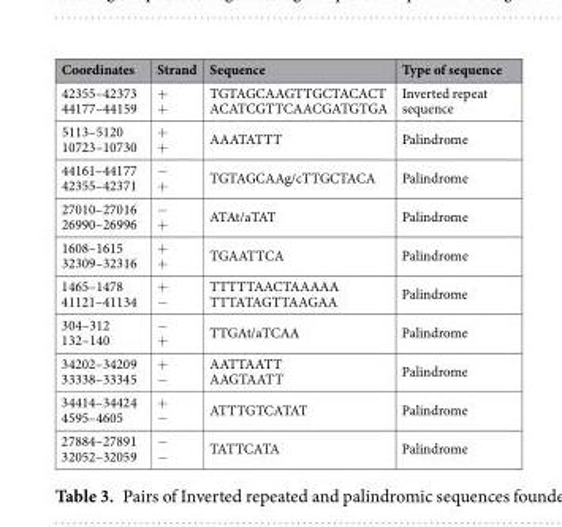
<table><thead><tr><td>Coordinates</td><td>Strand</td><td>Sequence</td><td>Type of sequence</td></tr></thead><tbody><tr><td>42355–42373 44177–44159</td><td>+ +</td><td>TGTAGCAAGTTGCTACACT ACATCGTTCAACGATGTGA</td><td>Inverted repeat sequence</td></tr><tr><td>5113–5120 10723–10730</td><td>+ +</td><td>AAATATTT</td><td>Palindrome</td></tr><tr><td>44161–44177 42355–42371</td><td>− +</td><td>TGTAGCAAg/cTTGCTACA</td><td>Palindrome</td></tr><tr><td>27010–27016 26990–26996</td><td>− +</td><td>ATAt/aTAT</td><td>Palindrome</td></tr><tr><td>1608–1615 32309–32316</td><td>+ +</td><td>TGAATTCA</td><td>Palindrome</td></tr><tr><td>1465–1478 41121–41134</td><td>+ −</td><td>TTTTTAACTAAAAA TTTATAGTTAAGAA</td><td>Palindrome</td></tr><tr><td>304–312 132–140</td><td>− +</td><td>TTGAt/aTCAA</td><td>Palindrome</td></tr><tr><td>34202–34209 33338–33345</td><td>+ −</td><td>AATTAATT AAGTAATT</td><td>Palindrome</td></tr><tr><td>34414–34424 4595–4605</td><td>+ −</td><td>ATTTGTCATAT</td><td>Palindrome</td></tr><tr><td>27884–27891 32052–32059</td><td>− −</td><td>TATTCATA</td><td>Palindrome</td></tr></tbody></table>